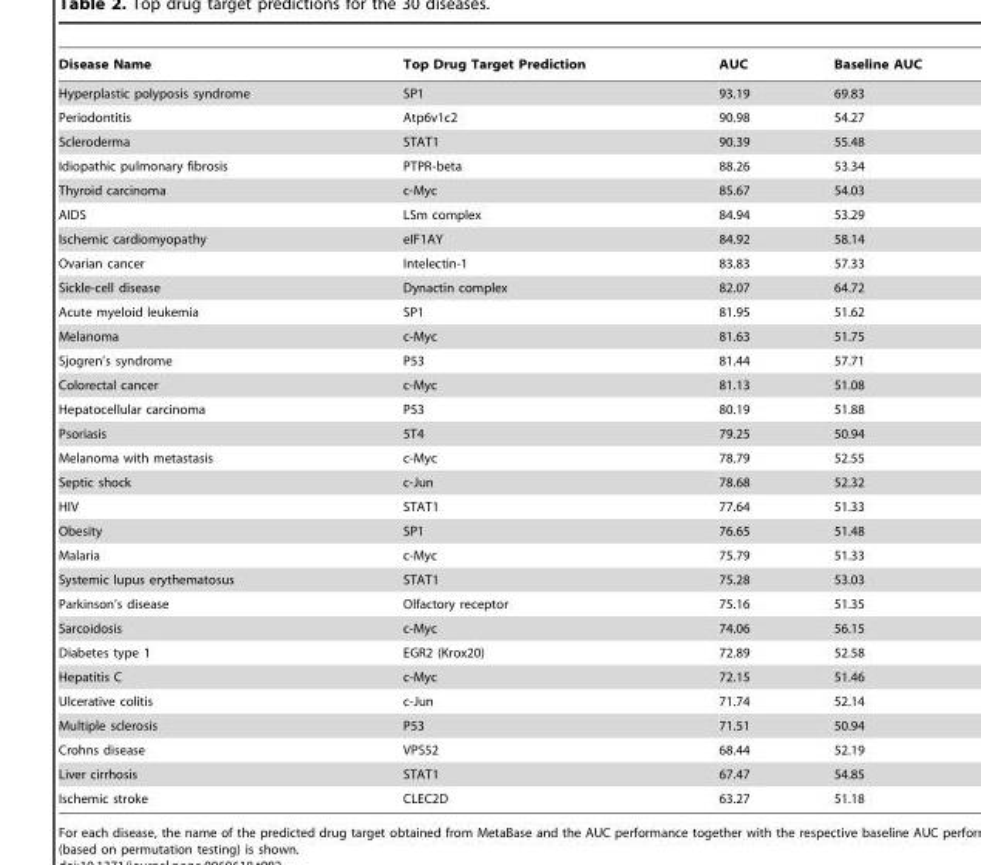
<table><thead><tr><td>Disease Name</td><td>Top Drug Target Prediction</td><td>AUC</td><td>Baseline AUC</td></tr></thead><tbody><tr><td>Hyperplastic polyposis syndrome</td><td>SP1</td><td>93.19</td><td>69.83</td></tr><tr><td>Periodontitis</td><td>Atp6v1c2</td><td>90.98</td><td>54.27</td></tr><tr><td>Scleroderma</td><td>STAT1</td><td>90.39</td><td>55.48</td></tr><tr><td>Idiopathic pulmonary fibrosis</td><td>PTPR-beta</td><td>88.26</td><td>53.34</td></tr><tr><td>Thyroid carcinoma</td><td>c-Myc</td><td>85.67</td><td>54.03</td></tr><tr><td>AIDS</td><td>LSm complex</td><td>84.94</td><td>53.29</td></tr><tr><td>Ischemic cardiomyopathy</td><td>eIF1AY</td><td>84.92</td><td>58.14</td></tr><tr><td>Ovarian cancer</td><td>Intelectin-1</td><td>83.83</td><td>57.33</td></tr><tr><td>Sickle-cell disease</td><td>Dynactin complex</td><td>82.07</td><td>64.72</td></tr><tr><td>Acute myeloid leukemia</td><td>SP1</td><td>81.95</td><td>51.62</td></tr><tr><td>Melanoma</td><td>c-Myc</td><td>81.63</td><td>51.75</td></tr><tr><td>Sjogren’s syndrome</td><td>P53</td><td>81.44</td><td>57.71</td></tr><tr><td>Colorectal cancer</td><td>c-Myc</td><td>81.13</td><td>51.08</td></tr><tr><td>Hepatocellular carcinoma</td><td>P53</td><td>80.19</td><td>51.88</td></tr><tr><td>Psoriasis</td><td>5T4</td><td>79.25</td><td>50.94</td></tr><tr><td>Melanoma with metastasis</td><td>c-Myc</td><td>78.79</td><td>52.55</td></tr><tr><td>Septic shock</td><td>c-Jun</td><td>78.68</td><td>52.32</td></tr><tr><td>HIV</td><td>STAT1</td><td>77.64</td><td>51.33</td></tr><tr><td>Obesity</td><td>SP1</td><td>76.65</td><td>51.48</td></tr><tr><td>Malaria</td><td>c-Myc</td><td>75.79</td><td>51.33</td></tr><tr><td>Systemic lupus erythematosus</td><td>STAT1</td><td>75.28</td><td>53.03</td></tr><tr><td>Parkinson’s disease</td><td>Olfactory receptor</td><td>75.16</td><td>51.35</td></tr><tr><td>Sarcoidosis</td><td>c-Myc</td><td>74.06</td><td>56.15</td></tr><tr><td>Diabetes type 1</td><td>EGR2 (Krox20)</td><td>72.89</td><td>52.58</td></tr><tr><td>Hepatitis C</td><td>c-Myc</td><td>72.15</td><td>51.46</td></tr><tr><td>Ulcerative colitis</td><td>c-Jun</td><td>71.74</td><td>52.14</td></tr><tr><td>Multiple sclerosis</td><td>P53</td><td>71.51</td><td>50.94</td></tr><tr><td>Crohns disease</td><td>VPS52</td><td>68.44</td><td>52.19</td></tr><tr><td>Liver cirrhosis</td><td>STAT1</td><td>67.47</td><td>54.85</td></tr><tr><td>Ischemic stroke</td><td>CLEC2D</td><td>63.27</td><td>51.18</td></tr></tbody></table>